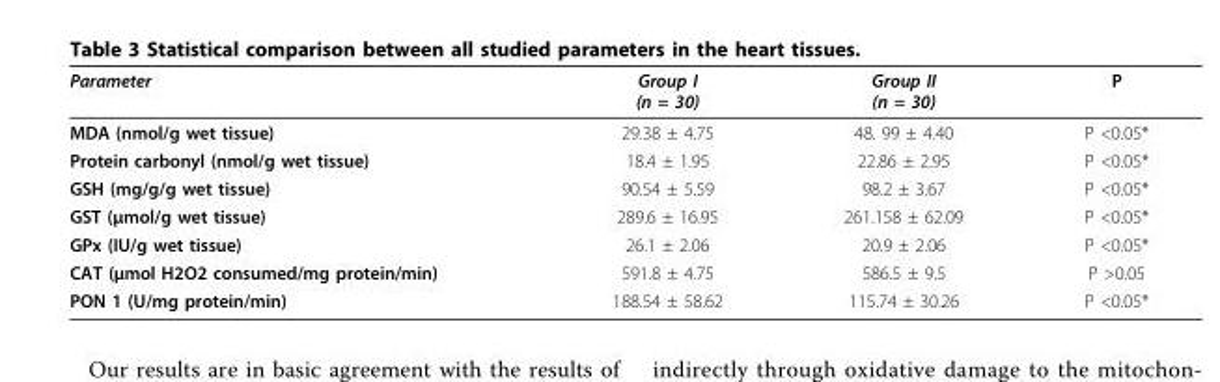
<table><thead><tr><td>Parameter</td><td>Group I (n = 30)</td><td>Group II (n = 30)</td><td>P</td></tr></thead><tbody><tr><td>MDA (nmol/g wet tissue)</td><td>29.38 ± 4.75</td><td>48. 99 ± 4.40</td><td>P &lt;0.05*</td></tr><tr><td>Protein carbonyl (nmol/g wet tissue)</td><td>18.4 ± 1.95</td><td>22.86 ± 2.95</td><td>P &lt;0.05*</td></tr><tr><td>GSH (mg/g/g wet tissue)</td><td>90.54 ± 5.59</td><td>98.2 ± 3.67</td><td>P &lt;0.05*</td></tr><tr><td>GST (μmol/g wet tissue)</td><td>289.6 ± 16.95</td><td>261.158 ± 62.09</td><td>P &lt;0.05*</td></tr><tr><td>GPx (IU/g wet tissue)</td><td>26.1 ± 2.06</td><td>20.9 ± 2.06</td><td>P &lt;0.05*</td></tr><tr><td>CAT (μmol H2O2 consumed/mg protein/min)</td><td>591.8 ± 4.75</td><td>586.5 ± 9.5</td><td>P &gt;0.05</td></tr><tr><td>PON 1 (U/mg protein/min)</td><td>188.54 ± 58.62</td><td>115.74 ± 30.26</td><td>P &lt;0.05*</td></tr></tbody></table>